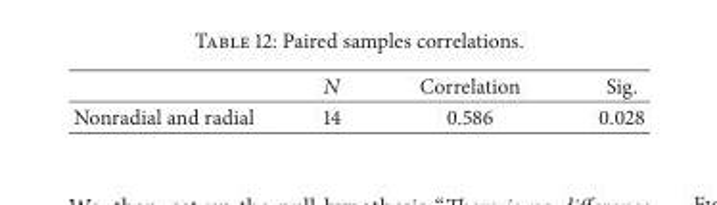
<table><thead><tr><td></td><td></td><td>Correlation</td><td>Sig.</td></tr></thead><tbody><tr><td>Nonradial and radial</td><td>14</td><td>0.586</td><td>0.028</td></tr></tbody></table>